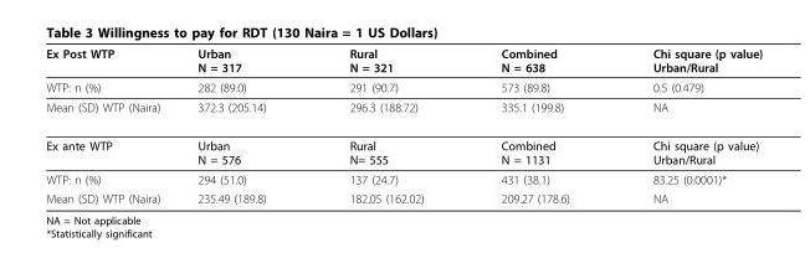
<table><thead><tr><td>Ex Post WTP</td><td>Urban N = 317</td><td>Rural N = 321</td><td>Combined N = 638</td><td>Chi square (p value) Urban/Rural</td></tr></thead><tbody><tr><td>WTP: n (%)</td><td>282 (89.0)</td><td>291 (90.7)</td><td>573 (89.8)</td><td>0.5 (0.479)</td></tr><tr><td>Mean (SD) WTP (Naira)</td><td>372.3 (205.14)</td><td>296.3 (188.72)</td><td>335.1 (199.8)</td><td>NA</td></tr><tr><td>Ex ante WTP</td><td>Urban N = 576</td><td>Rural N= 555</td><td>Combined N = 1131</td><td>Chi square (p value) Urban/Rural</td></tr><tr><td>WTP: n (%)</td><td>294 (51.0)</td><td>137 (24.7)</td><td>431 (38.1)</td><td>83.25 (0.0001)*</td></tr><tr><td>Mean (SD) WTP (Naira)</td><td>235.49 (189.8)</td><td>182.05 (162.02)</td><td>209.27 (178.6)</td><td>NA</td></tr></tbody></table>